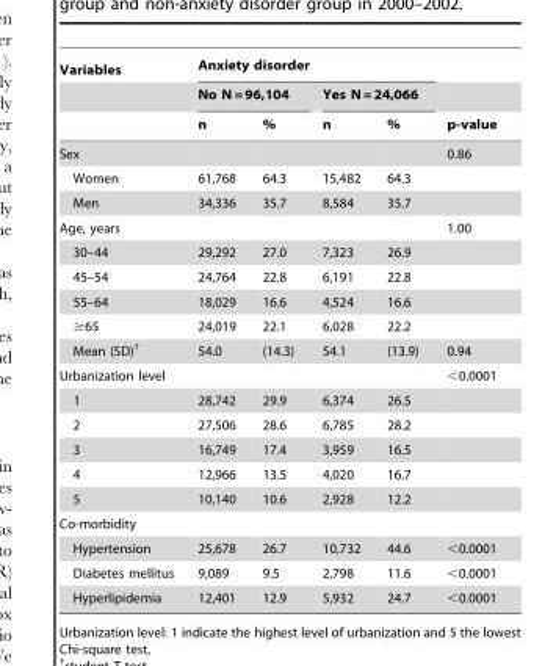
<table><thead><tr><td rowspan="3">Variables</td><td colspan="4">Anxiety disorder</td><td rowspan="3">p-value</td></tr><tr><td colspan="2">No N = 96,104</td><td colspan="2">Yes N = 24,066</td></tr><tr><td>n</td><td>%</td><td>n</td><td>%</td></tr></thead><tbody><tr><td>Sex</td><td></td><td></td><td></td><td></td><td>0.86</td></tr><tr><td>Women</td><td>61,768</td><td>64.3</td><td>15,482</td><td>64.3</td><td></td></tr><tr><td>Men</td><td>34,336</td><td>35.7</td><td>8,584</td><td>35.7</td><td></td></tr><tr><td>Age, years</td><td></td><td></td><td></td><td></td><td>1.00</td></tr><tr><td>30–44</td><td>29,292</td><td>27.0</td><td>7,323</td><td>26.9</td><td></td></tr><tr><td>45–54</td><td>24,764</td><td>22.8</td><td>6,191</td><td>22.8</td><td></td></tr><tr><td>55–64</td><td>18,029</td><td>16.6</td><td>4,524</td><td>16.6</td><td></td></tr><tr><td>≥65</td><td>24,019</td><td>22.1</td><td>6,028</td><td>22.2</td><td></td></tr><tr><td>Mean (SD)†</td><td>54.0</td><td>(14.3)</td><td>54.1</td><td>(13.9)</td><td>0.94</td></tr><tr><td>Urbanization level</td><td></td><td></td><td></td><td></td><td>&lt;0.0001</td></tr><tr><td>1</td><td>28,742</td><td>29.9</td><td>6,374</td><td>26.5</td><td></td></tr><tr><td>2</td><td>27,506</td><td>28.6</td><td>6,785</td><td>28.2</td><td></td></tr><tr><td>3</td><td>16,749</td><td>17.4</td><td>3,959</td><td>16.5</td><td></td></tr><tr><td>4</td><td>12,966</td><td>13.5</td><td>4,020</td><td>16.7</td><td></td></tr><tr><td>5</td><td>10,140</td><td>10.6</td><td>2,928</td><td>12.2</td><td></td></tr><tr><td colspan="6">Co-morbidity</td></tr><tr><td>Hypertension</td><td>25,678</td><td>26.7</td><td>10,732</td><td>44.6</td><td>&lt;0.0001</td></tr><tr><td>Diabetes mellitus</td><td>9,089</td><td>9.5</td><td>2,798</td><td>11.6</td><td>&lt;0.0001</td></tr><tr><td>Hyperlipidemia</td><td>12,401</td><td>12.9</td><td>5,932</td><td>24.7</td><td>&lt;0.0001</td></tr></tbody></table>